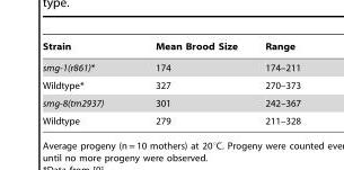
<table><thead><tr><td>Strain</td><td>Mean Brood Size</td><td>Range</td></tr></thead><tbody><tr><td>smg-1(r861)*</td><td>174</td><td>174–211</td></tr><tr><td>Wildtype*</td><td>327</td><td>270–373</td></tr><tr><td>smg-8(tm2937)</td><td>301</td><td>242–367</td></tr><tr><td>Wildtype</td><td>279</td><td>211–328</td></tr></tbody></table>